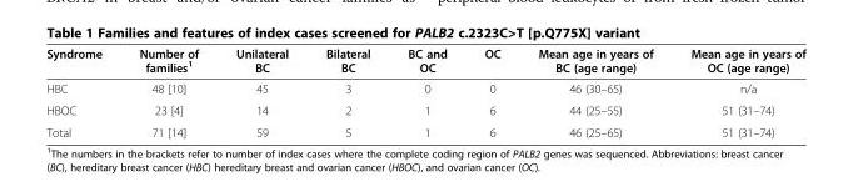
<table><thead><tr><td>Syndrome</td><td>Number of families<sup>1</sup></td><td>Unilateral BC</td><td>Bilateral BC</td><td>BC and OC</td><td>OC</td><td>Mean age in years of BC (age range)</td><td>Mean age in years of OC (age range)</td></tr></thead><tbody><tr><td>HBC</td><td>48 [10]</td><td>45</td><td>3</td><td>0</td><td>0</td><td>46 (30–65)</td><td>n/a</td></tr><tr><td>HBOC</td><td>23 [4]</td><td>14</td><td>2</td><td>1</td><td>6</td><td>44 (25–55)</td><td>51 (31–74)</td></tr><tr><td>Total</td><td>71 [14]</td><td>59</td><td>5</td><td>1</td><td>6</td><td>46 (25–65)</td><td>51 (31–74)</td></tr></tbody></table>